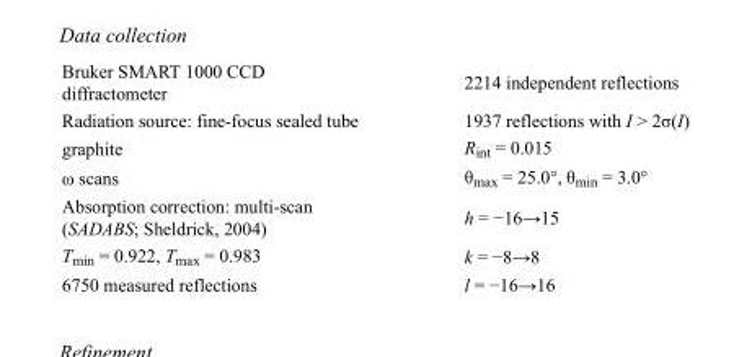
<table><tbody><tr><td>Bruker SMART 1000 CCD diffractometer</td><td>2214 independent reflections</td></tr><tr><td>Radiation source: fine-focus sealed tube</td><td>1937 reflections with I &gt; 2σ(I)</td></tr><tr><td>graphite</td><td>R<sub>int</sub> = 0.015</td></tr><tr><td>ω scans</td><td>θ<sub>max</sub> = 25.0°, θ<sub>min</sub> = 3.0°</td></tr><tr><td>Absorption correction: multi-scan (SADABS; Sheldrick, 2004)</td><td>h = −16→15</td></tr><tr><td>T<sub>min</sub> = 0.922, T<sub>max</sub> = 0.983</td><td>k = −8→8</td></tr><tr><td>6750 measured reflections</td><td>l = −16→16</td></tr></tbody></table>